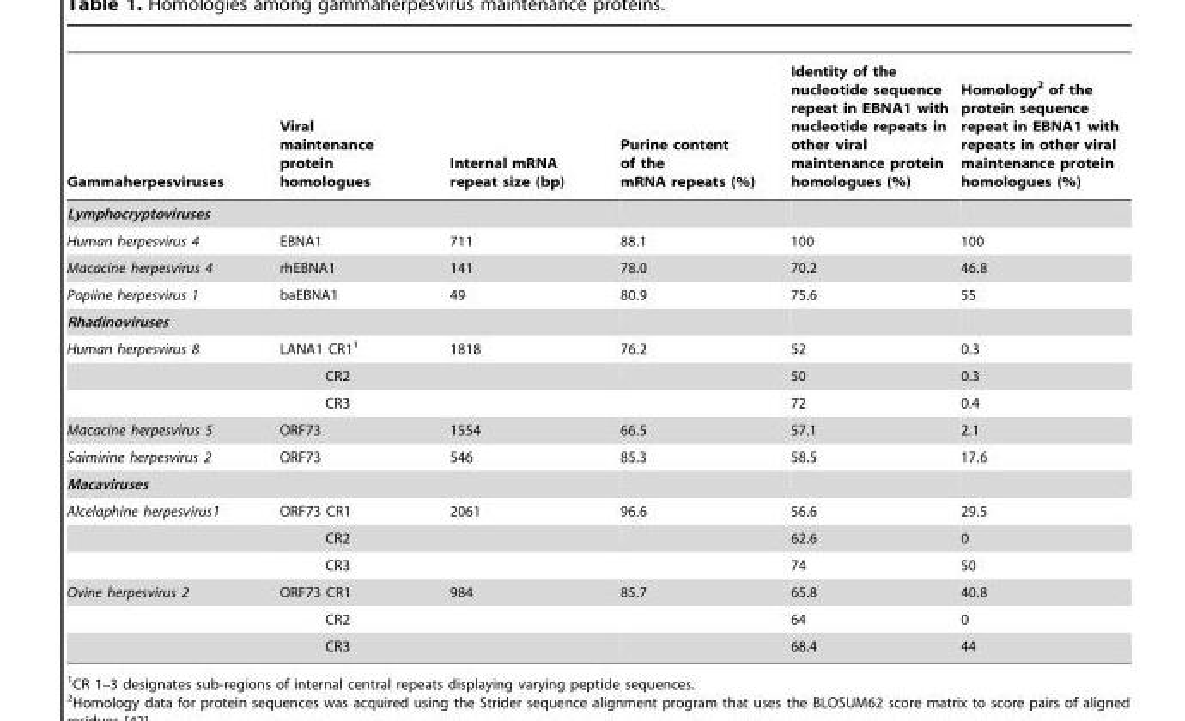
<table><thead><tr><td>Gammaherpesviruses</td><td>Viral maintenance protein homologues</td><td>Internal mRNA repeat size (bp)</td><td>Purine content of the mRNA repeats (%)</td><td>Identity of the nucleotide sequence repeat in EBNA1 with nucleotide repeats in other viral maintenance protein homologues (%)</td><td>Homology<sup>2</sup> of the protein sequence repeat in EBNA1 with repeats in other viral maintenance protein homologues (%)</td></tr></thead><tbody><tr><td colspan="6">Lymphocryptoviruses</td></tr><tr><td>Human herpesvirus 4</td><td>EBNA1</td><td>711</td><td>88.1</td><td>100</td><td>100</td></tr><tr><td>Macacine herpesvirus 4</td><td>rhEBNA1</td><td>141</td><td>78.0</td><td>70.2</td><td>46.8</td></tr><tr><td>Papiine herpesvirus 1</td><td>baEBNA1</td><td>49</td><td>80.9</td><td>75.6</td><td>55</td></tr><tr><td colspan="6">Rhadinoviruses</td></tr><tr><td rowspan="3">Human herpesvirus 8</td><td>LANA1 CR1<sup>1</sup></td><td>1818</td><td>76.2</td><td>52</td><td>0.3</td></tr><tr><td>CR2</td><td></td><td></td><td>50</td><td>0.3</td></tr><tr><td>CR3</td><td></td><td></td><td>72</td><td>0.4</td></tr><tr><td>Macacine herpesvirus 5</td><td>ORF73</td><td>1554</td><td>66.5</td><td>57.1</td><td>2.1</td></tr><tr><td>Saimirine herpesvirus 2</td><td>ORF73</td><td>546</td><td>85.3</td><td>58.5</td><td>17.6</td></tr><tr><td colspan="6">Macaviruses</td></tr><tr><td rowspan="3">Alcelaphine herpesvirus1</td><td>ORF73 CR1</td><td>2061</td><td>96.6</td><td>56.6</td><td>29.5</td></tr><tr><td>CR2</td><td></td><td></td><td>62.6</td><td>0</td></tr><tr><td>CR3</td><td></td><td></td><td>74</td><td>50</td></tr><tr><td rowspan="3">Ovine herpesvirus 2</td><td>ORF73 CR1</td><td>984</td><td>85.7</td><td>65.8</td><td>40.8</td></tr><tr><td>CR2</td><td></td><td></td><td>64</td><td>0</td></tr><tr><td>CR3</td><td></td><td></td><td>68.4</td><td>44</td></tr></tbody></table>